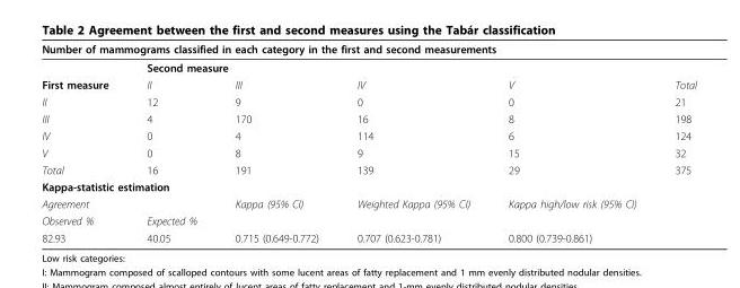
<table><thead><tr><td colspan="6">Number of mammograms classified in each category in the first and second measurements</td></tr><tr><td rowspan="2">First measure</td><td colspan="5">Second measure</td></tr><tr><td>II</td><td>III</td><td>IV</td><td>V</td><td>Total</td></tr></thead><tbody><tr><td>II</td><td>12</td><td>9</td><td>0</td><td>0</td><td>21</td></tr><tr><td>III</td><td>4</td><td>170</td><td>16</td><td>8</td><td>198</td></tr><tr><td>IV</td><td>0</td><td>4</td><td>114</td><td>6</td><td>124</td></tr><tr><td>V</td><td>0</td><td>8</td><td>9</td><td>15</td><td>32</td></tr><tr><td>Total</td><td>16</td><td>191</td><td>139</td><td>29</td><td>375</td></tr><tr><td colspan="6">Kappa-statistic estimation</td></tr><tr><td colspan="2">Agreement</td><td>Kappa (95% CI)</td><td>Weighted Kappa (95% CI)</td><td>Kappa high/low risk (95% CI)</td><td></td></tr><tr><td>Observed %</td><td>Expected %</td><td></td><td></td><td></td><td></td></tr><tr><td>82.93</td><td>40.05</td><td>0.715 (0.649-0.772)</td><td>0.707 (0.623-0.781)</td><td>0.800 (0.739-0.861)</td><td></td></tr></tbody></table>